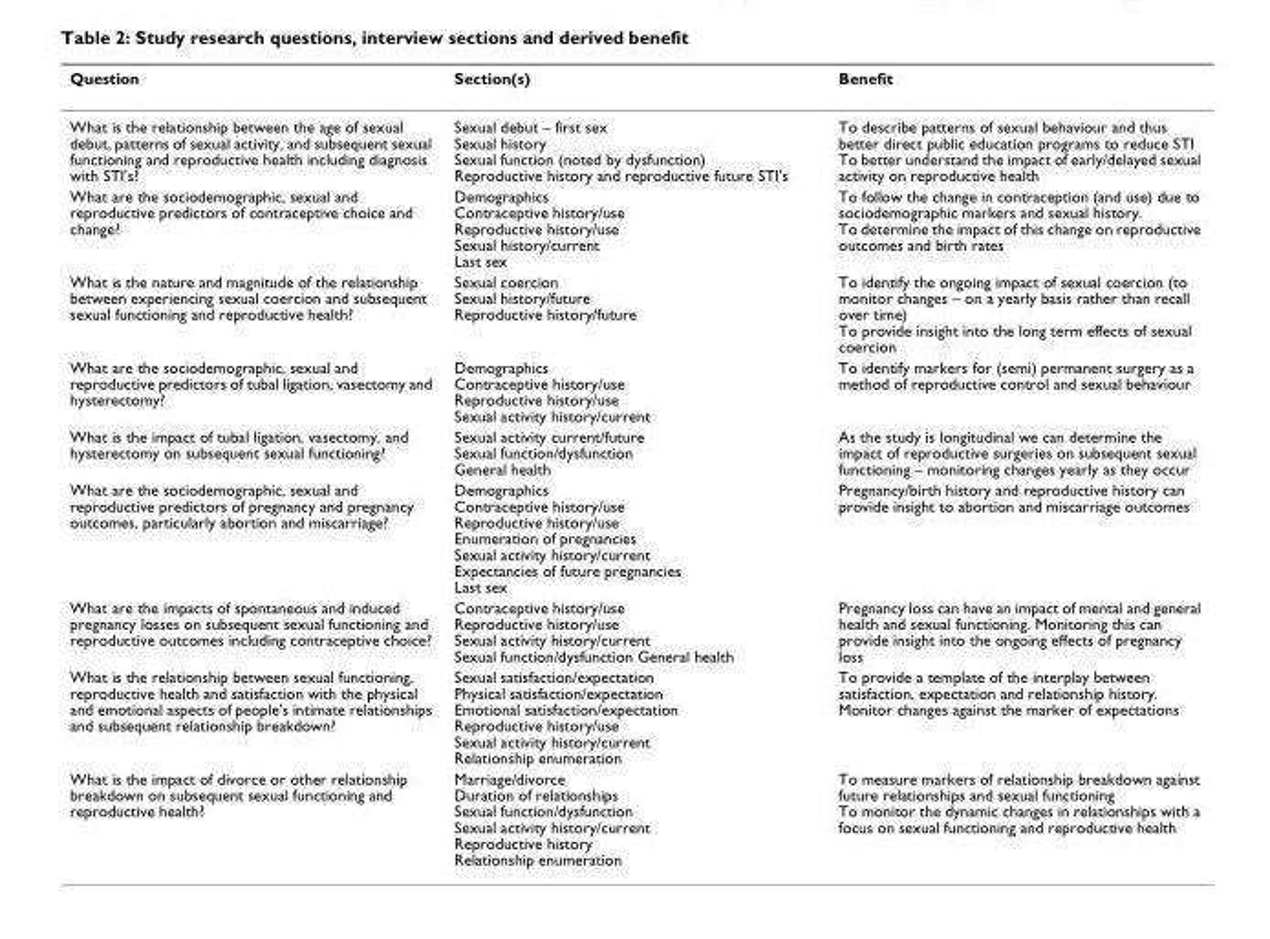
<table><thead><tr><td>Question</td><td>Section(s)</td><td>Benefit</td></tr></thead><tbody><tr><td>What is the relationship between the age of sexual debut, patterns of sexual activity, and subsequent sexual functioning and reproductive health including diagnosis with STI&#x27;s?</td><td>Sexual debut – first sex Sexual history Sexual function (noted by dysfunction) Reproductive history and reproductive future STI&#x27;s</td><td>To describe patterns of sexual behaviour and thus better direct public education programs to reduce STI To better understand the impact of early/delayed sexual activity on reproductive health</td></tr><tr><td>What are the sociodemographic, sexual and reproductive predictors of contraceptive choice and change?</td><td>Demographics Contraceptive history/use Reproductive history/use Sexual history/current Last sex</td><td>To follow the change in contraception (and use) due to sociodemographic markers and sexual history. To determine the impact of this change on reproductive outcomes and birth rates</td></tr><tr><td>What is the nature and magnitude of the relationship between experiencing sexual coercion and subsequent sexual functioning and reproductive health?</td><td>Sexual coercion Sexual history/future Reproductive history/future</td><td>To identify the ongoing impact of sexual coercion (to monitor changes – on a yearly basis rather than recall over time) To provide insight into the long term effects of sexual coercion</td></tr><tr><td>What are the sociodemographic, sexual and reproductive predictors of tubal ligation, vasectomy and hysterectomy?</td><td>Demographics Contraceptive history/use Reproductive history/use Sexual activity history/current</td><td>To identify markers for (semi) permanent surgery as a method of reproductive control and sexual behaviour</td></tr><tr><td>What is the impact of tubal ligation, vasectomy, and hysterectomy on subsequent sexual functioning?</td><td>Sexual activity current/future Sexual function/dysfunction General health</td><td>As the study is longitudinal we can determine the impact of reproductive surgeries on subsequent sexual functioning – monitoring changes yearly as they occur</td></tr><tr><td>What are the sociodemographic, sexual and reproductive predictors of pregnancy and pregnancy outcomes, particularly abortion and miscarriage?</td><td>Demographics Contraceptive history/use Reproductive history/use Enumeration of pregnancies Sexual activity history/current Expectancies of future pregnancies Last sex</td><td>Pregnancy/birth history and reproductive history can provide insight to abortion and miscarriage outcomes</td></tr><tr><td>What are the impacts of spontaneous and induced pregnancy losses on subsequent sexual functioning and reproductive outcomes including contraceptive choice?</td><td>Contraceptive history/use Reproductive history/use Sexual activity history/current Sexual function/dysfunction General health</td><td>Pregnancy loss can have an impact of mental and general health and sexual functioning. Monitoring this can provide insight into the ongoing effects of pregnancy loss</td></tr><tr><td>What is the relationship between sexual functioning, reproductive health and satisfaction with the physical and emotional aspects of people&#x27;s intimate relationships and subsequent relationship breakdown?</td><td>Sexual satisfaction/expectation Physical satisfaction/expectation Emotional satisfaction/expectation Reproductive history/use Sexual activity history/current Relationship enumeration</td><td>To provide a template of the interplay between satisfaction, expectation and relationship history. Monitor changes against the marker of expectations</td></tr><tr><td>What is the impact of divorce or other relationship breakdown on subsequent sexual functioning and reproductive health?</td><td>Marriage/divorce Duration of relationships Sexual function/dysfunction Sexual activity history/current Reproductive history Relationship enumeration</td><td>To measure markers of relationship breakdown against future relationships and sexual functioning To monitor the dynamic changes in relationships with a focus on sexual functioning and reproductive health</td></tr></tbody></table>